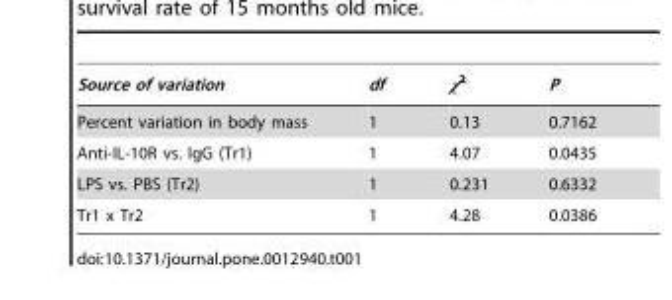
<table><thead><tr><td>Source of variation</td><td>df</td><td>χ<sup>2</sup></td><td>P</td></tr></thead><tbody><tr><td>Percent variation in body mass</td><td>1</td><td>0.13</td><td>0.7162</td></tr><tr><td>Anti-IL-10R vs. IgG (Tr1)</td><td>1</td><td>4.07</td><td>0.0435</td></tr><tr><td>LPS vs. PBS (Tr2)</td><td>1</td><td>0.231</td><td>0.6332</td></tr><tr><td>Tr1 x Tr2</td><td>1</td><td>4.28</td><td>0.0386</td></tr></tbody></table>